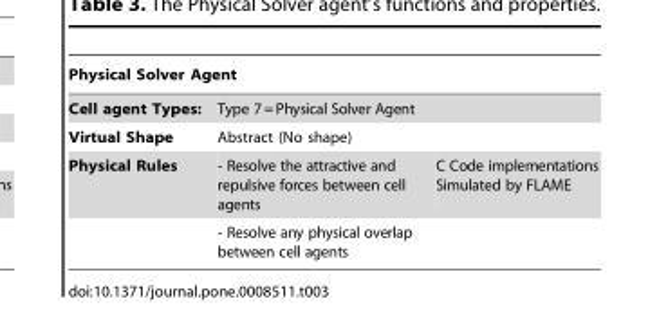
<table><thead><tr><td colspan="3">Physical Solver Agent</td></tr><tr><td rowspan="3">Cell agent Types: Virtual Shape Physical Rules</td><td rowspan="2" colspan="2">Type 7=Physical Solver Agent Abstract (No shape)</td></tr><tr></tr><tr><td>- Resolve the attractive and repulsive forces between cell agents</td><td>C Code implementations Simulated by FLAME</td></tr></thead><tbody><tr><td></td><td>- Resolve any physical overlap between cell agents</td><td></td></tr></tbody></table>